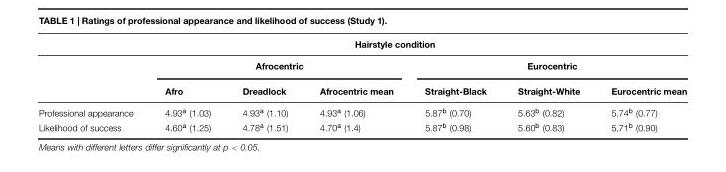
<table><thead><tr><td rowspan="3"></td><td colspan="6">Hairstyle condition</td></tr><tr><td colspan="3">Afrocentric</td><td colspan="3">Eurocentric</td></tr><tr><td>Afro</td><td>Dreadlock</td><td>Afrocentric mean</td><td>Straight-Black</td><td>Straight-White</td><td>Eurocentric mean</td></tr></thead><tbody><tr><td>Professional appearance</td><td>4.93<sup>a</sup> (1.03)</td><td>4.93<sup>a</sup> (1.10)</td><td>4.93<sup>a</sup> (1.06)</td><td>5.87<sup>b</sup> (0.70)</td><td>5.63<sup>b</sup> (0.82)</td><td>5.74<sup>b</sup> (0.77)</td></tr><tr><td>Likelihood of success</td><td>4.60<sup>a</sup> (1.25)</td><td>4.78<sup>a</sup> (1.51)</td><td>4.70<sup>a</sup> (1.4)</td><td>5.87<sup>b</sup> (0.98)</td><td>5.60<sup>b</sup> (0.83)</td><td>5.71<sup>b</sup> (0.90)</td></tr></tbody></table>